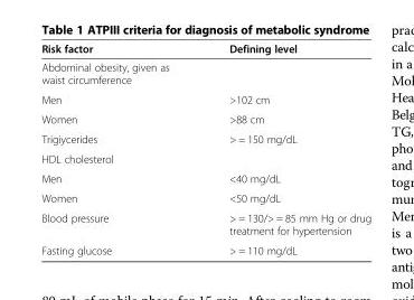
<table><thead><tr><td>Risk factor</td><td>Defining level</td></tr></thead><tbody><tr><td colspan="2">Abdominal obesity, given as waist circumference</td></tr><tr><td>Men</td><td>&gt;102 cm</td></tr><tr><td>Women</td><td>&gt;88 cm</td></tr><tr><td>Trigiycerides</td><td>&gt; = 150 mg/dL</td></tr><tr><td colspan="2">HDL cholesterol</td></tr><tr><td>Men</td><td>&lt;40 mg/dL</td></tr><tr><td>Women</td><td>&lt;50 mg/dL</td></tr><tr><td>Blood pressure</td><td>&gt; = 130/&gt; = 85 mm Hg or drug treatment for hypertension</td></tr><tr><td>Fasting glucose</td><td>&gt; = 110 mg/dL</td></tr></tbody></table>